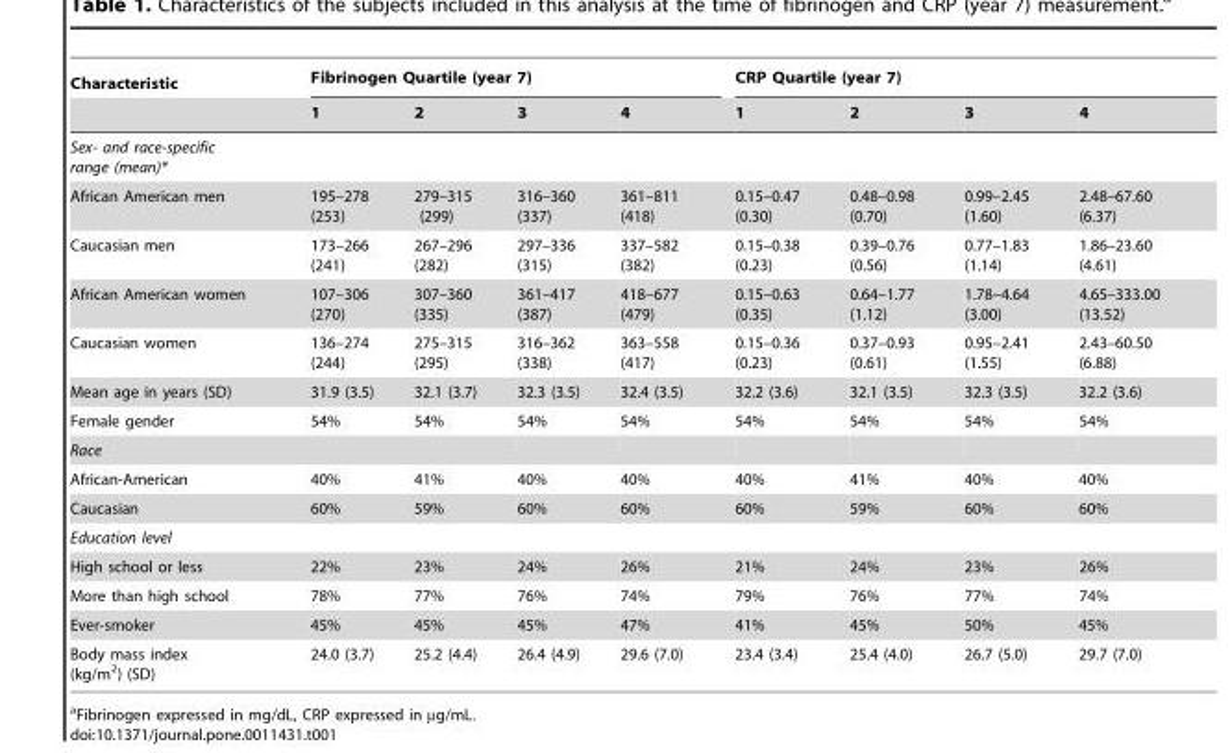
<table><thead><tr><td rowspan="2">Characteristic</td><td colspan="4">Fibrinogen Quartile (year 7)</td><td colspan="4">CRP Quartile (year 7)</td></tr><tr><td>1</td><td>2</td><td>3</td><td>4</td><td>1</td><td>2</td><td>3</td><td>4</td></tr></thead><tbody><tr><td colspan="9">Sex- and race-specific range (mean)*</td></tr><tr><td>African American men</td><td>195–278 (253)</td><td>279–315 (299)</td><td>316–360 (337)</td><td>361–811 (418)</td><td>0.15–0.47 (0.30)</td><td>0.48–0.98 (0.70)</td><td>0.99–2.45 (1.60)</td><td>2.48–67.60 (6.37)</td></tr><tr><td>Caucasian men</td><td>173–266 (241)</td><td>267–296 (282)</td><td>297–336 (315)</td><td>337–582 (382)</td><td>0.15–0.38 (0.23)</td><td>0.39–0.76 (0.56)</td><td>0.77–1.83 (1.14)</td><td>1.86–23.60 (4.61)</td></tr><tr><td>African American women</td><td>107–306 (270)</td><td>307–360 (335)</td><td>361–417 (387)</td><td>418–677 (479)</td><td>0.15–0.63 (0.35)</td><td>0.64–1.77 (1.12)</td><td>1.78–4.64 (3.00)</td><td>4.65–333.00 (13.52)</td></tr><tr><td>Caucasian women</td><td>136–274 (244)</td><td>275–315 (295)</td><td>316–362 (338)</td><td>363–558 (417)</td><td>0.15–0.36 (0.23)</td><td>0.37–0.93 (0.61)</td><td>0.95–2.41 (1.55)</td><td>2.43–60.50 (6.88)</td></tr><tr><td>Mean age in years (SD)</td><td>31.9 (3.5)</td><td>32.1 (3.7)</td><td>32.3 (3.5)</td><td>32.4 (3.5)</td><td>32.2 (3.6)</td><td>32.1 (3.5)</td><td>32.3 (3.5)</td><td>32.2 (3.6)</td></tr><tr><td>Female gender</td><td>54%</td><td>54%</td><td>54%</td><td>54%</td><td>54%</td><td>54%</td><td>54%</td><td>54%</td></tr><tr><td colspan="9">Race</td></tr><tr><td>African-American</td><td>40%</td><td>41%</td><td>40%</td><td>40%</td><td>40%</td><td>41%</td><td>40%</td><td>40%</td></tr><tr><td>Caucasian</td><td>60%</td><td>59%</td><td>60%</td><td>60%</td><td>60%</td><td>59%</td><td>60%</td><td>60%</td></tr><tr><td colspan="9">Education level</td></tr><tr><td>High school or less</td><td>22%</td><td>23%</td><td>24%</td><td>26%</td><td>21%</td><td>24%</td><td>23%</td><td>26%</td></tr><tr><td>More than high school</td><td>78%</td><td>77%</td><td>76%</td><td>74%</td><td>79%</td><td>76%</td><td>77%</td><td>74%</td></tr><tr><td>Ever-smoker</td><td>45%</td><td>45%</td><td>45%</td><td>47%</td><td>41%</td><td>45%</td><td>50%</td><td>45%</td></tr><tr><td>Body mass index (kg/m<sup>2</sup>) (SD)</td><td>24.0 (3.7)</td><td>25.2 (4.4)</td><td>26.4 (4.9)</td><td>29.6 (7.0)</td><td>23.4 (3.4)</td><td>25.4 (4.0)</td><td>26.7 (5.0)</td><td>29.7 (7.0)</td></tr></tbody></table>